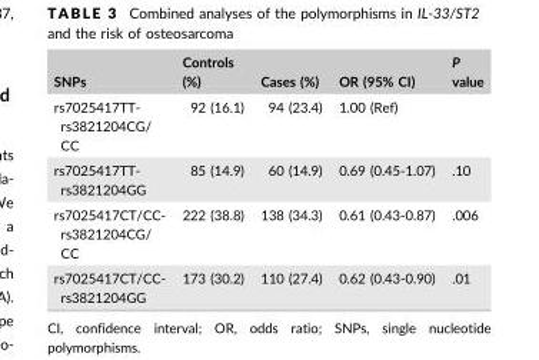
<table><thead><tr><td>SNPs</td><td>Controls (%)</td><td>Cases (%)</td><td>OR (95% CI)</td><td>P value</td></tr></thead><tbody><tr><td>rs7025417TT- rs3821204CG/ CC</td><td>92 (16.1)</td><td>94 (23.4)</td><td>1.00 (Ref)</td><td></td></tr><tr><td>rs7025417TT- rs3821204GG</td><td>85 (14.9)</td><td>60 (14.9)</td><td>0.69 (0.45-1.07)</td><td>.10</td></tr><tr><td>rs7025417CT/CC- rs3821204CG/ CC</td><td>222 (38.8)</td><td>138 (34.3)</td><td>0.61 (0.43-0.87)</td><td>.006</td></tr><tr><td>rs7025417CT/CC- rs3821204GG</td><td>173 (30.2)</td><td>110 (27.4)</td><td>0.62 (0.43-0.90)</td><td>.01</td></tr></tbody></table>